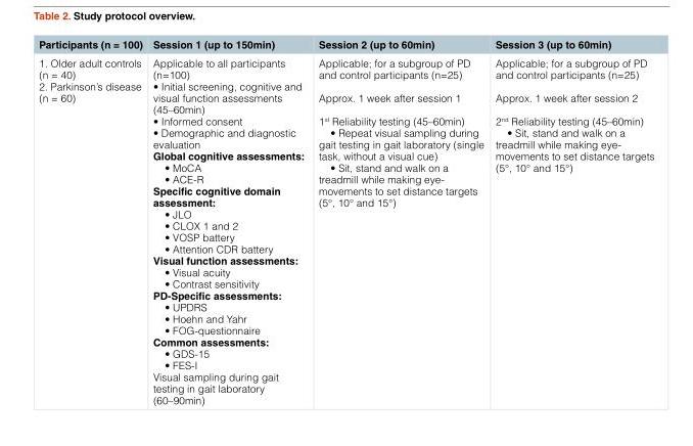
<table><thead><tr><td>Participants (n = 100)</td><td>Session 1 (up to 150min)</td><td>Session 2 (up to 60min)</td><td>Session 3 (up to 60min)</td></tr></thead><tbody><tr><td>1. Older adult controls (n = 40) 2. Parkinson’s disease (n = 60)</td><td>Applicable to all participants (n=100) • Initial screening, cognitive and visual function assessments (45–60min) • Informed consent • Demographic and diagnostic evaluation Global cognitive assessments: • MoCA • ACE-R Specific cognitive domain assessment: • JLO • CLOX 1 and 2 • VOSP battery • Attention CDR battery Visual function assessments: • Visual acuity • Contrast sensitivity PD-Specific assessments: • UPDRS • Hoehn and Yahr • FOG-questionnaire Common assessments: • GDS-15 • FES-I Visual sampling during gait testing in gait laboratory (60–90min)</td><td>Applicable; for a subgroup of PD and control participants (n=25) Approx. 1 week after session 1 1<sup>st</sup> Reliability testing (45–60min) • Repeat visual sampling during gait testing in gait laboratory (single task, without a visual cue) • Sit, stand and walk on a treadmill while making eye- movements to set distance targets (5°, 10° and 15°)</td><td>Applicable; for a subgroup of PD and control participants (n=25) Approx. 1 week after session 2 2<sup>nd</sup> Reliability testing (45–60min) • Sit, stand and walk on a treadmill while making eye- movements to set distance targets (5°, 10° and 15°)</td></tr></tbody></table>